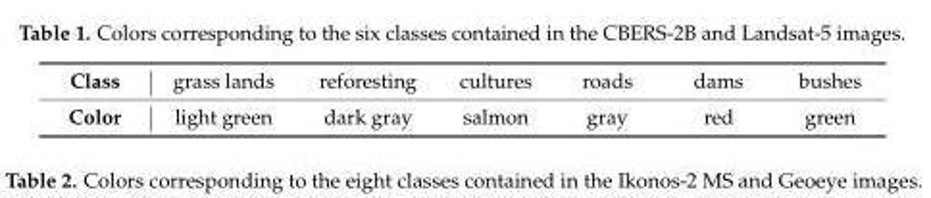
<table><tbody><tr><td>Class</td><td>grass lands</td><td>reforesting</td><td>cultures</td><td>roads</td><td>dams</td><td>bushes</td></tr><tr><td>Color</td><td>light green</td><td>dark gray</td><td>salmon</td><td>gray</td><td>red</td><td>green</td></tr></tbody></table>